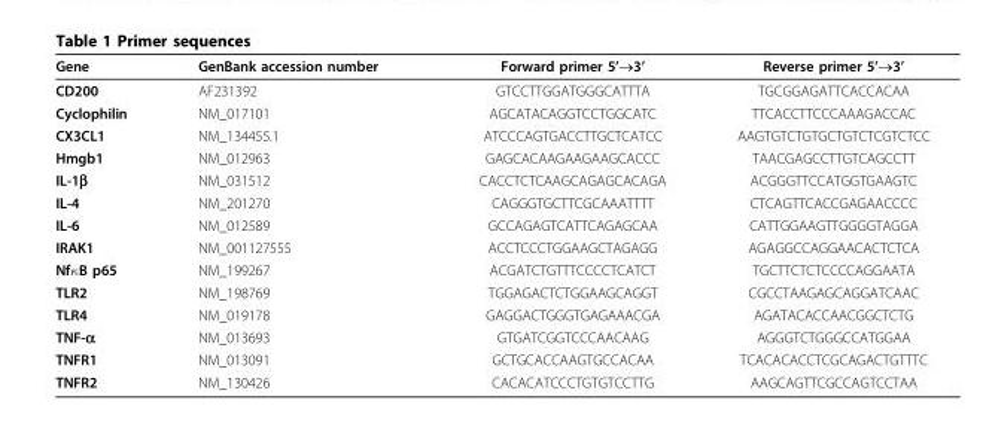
<table><thead><tr><td>Gene</td><td>GenBank accession number</td><td>Forward primer 5’→3’</td><td>Reverse primer 5’→3’</td></tr></thead><tbody><tr><td>CD200</td><td>AF231392</td><td>GTCCTTGGATGGGCATTTA</td><td>TGCGGAGATTCACCACAA</td></tr><tr><td>Cyclophilin</td><td>NM_017101</td><td>AGCATACAGGTCCTGGCATC</td><td>TTCACCTTCCCAAAGACCAC</td></tr><tr><td>CX3CL1</td><td>NM_134455.1</td><td>ATCCCAGTGACCTTGCTCATCC</td><td>AAGTGTCTGTGCTGTCTCGTCTCC</td></tr><tr><td>Hmgb1</td><td>NM_012963</td><td>GAGCACAAGAAGAAGCACCC</td><td>TAACGAGCCTTGTCAGCCTT</td></tr><tr><td>IL-1β</td><td>NM_031512</td><td>CACCTCTCAAGCAGAGCACAGA</td><td>ACGGGTTCCATGGTGAAGTC</td></tr><tr><td>IL-4</td><td>NM_201270</td><td>CAGGGTGCTTCGCAAATTTT</td><td>CTCAGTTCACCGAGAACCCC</td></tr><tr><td>IL-6</td><td>NM_012589</td><td>GCCAGAGTCATTCAGAGCAA</td><td>CATTGGAAGTTGGGGTAGGA</td></tr><tr><td>IRAK1</td><td>NM_001127555</td><td>ACCTCCCTGGAAGCTAGAGG</td><td>AGAGGCCAGGAACACTCTCA</td></tr><tr><td>NfκB p65</td><td>NM_199267</td><td>ACGATCTGTTTCCCCTCATCT</td><td>TGCTTCTCTCCCCAGGAATA</td></tr><tr><td>TLR2</td><td>NM_198769</td><td>TGGAGACTCTGGAAGCAGGT</td><td>CGCCTAAGAGCAGGATCAAC</td></tr><tr><td>TLR4</td><td>NM_019178</td><td>GAGGACTGGGTGAGAAACGA</td><td>AGATACACCAACGGCTCTG</td></tr><tr><td>TNF-α</td><td>NM_013693</td><td>GTGATCGGTCCCAACAAG</td><td>AGGGTCTGGGCCATGGAA</td></tr><tr><td>TNFR1</td><td>NM_013091</td><td>GCTGCACCAAGTGCCACAA</td><td>TCACACACCTCGCAGACTGTTTC</td></tr><tr><td>TNFR2</td><td>NM_130426</td><td>CACACATCCCTGTGTCCTTG</td><td>AAGCAGTTCGCCAGTCCTAA</td></tr></tbody></table>